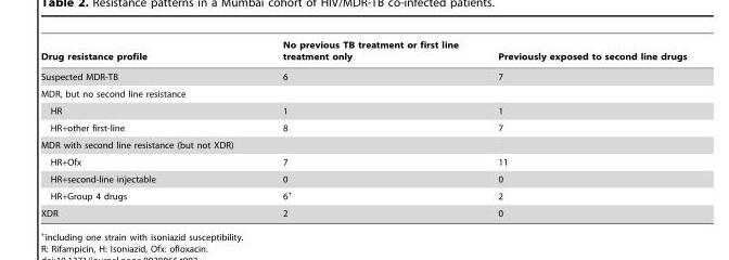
<table><thead><tr><td>Drug resistance profile</td><td>No previous TB treatment or first line treatment only</td><td>Previously exposed to second line drugs</td></tr></thead><tbody><tr><td>Suspected MDR-TB</td><td>6</td><td>7</td></tr><tr><td colspan="3">MDR, but no second line resistance</td></tr><tr><td>HR</td><td>1</td><td>1</td></tr><tr><td>HR+other first-line</td><td>8</td><td>7</td></tr><tr><td colspan="3">MDR with second line resistance (but not XDR)</td></tr><tr><td>HR+Ofx</td><td>7</td><td>11</td></tr><tr><td>HR+second-line injectable</td><td>0</td><td>0</td></tr><tr><td>HR+Group 4 drugs</td><td>6+</td><td>2</td></tr><tr><td>XDR</td><td>2</td><td>0</td></tr></tbody></table>